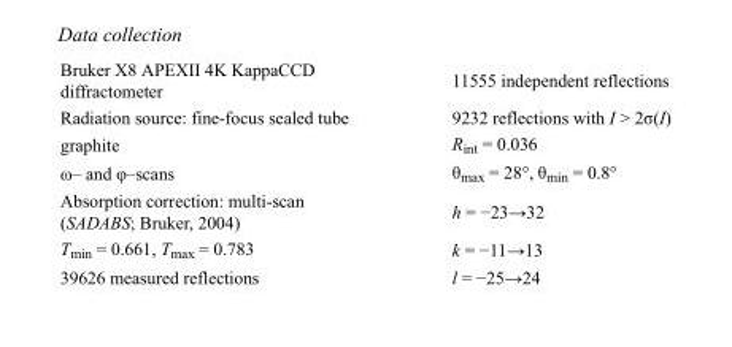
<table><tbody><tr><td>Bruker X8 APEXII 4K KappaCCD diffractometer</td><td>11555 independent reflections</td></tr><tr><td>Radiation source: fine-focus sealed tube</td><td>9232 reflections with I &gt; 2σ(I)</td></tr><tr><td>graphite</td><td>R<sub>int</sub> = 0.036</td></tr><tr><td>ω– and φ–scans</td><td>θ<sub>max</sub> = 28°, θ<sub>min</sub> = 0.8°</td></tr><tr><td>Absorption correction: multi-scan (SADABS; Bruker, 2004)</td><td>h = −23→32</td></tr><tr><td>T<sub>min</sub> = 0.661, T<sub>max</sub> = 0.783</td><td>k = −11→13</td></tr><tr><td>39626 measured reflections</td><td>l = −25→24</td></tr></tbody></table>